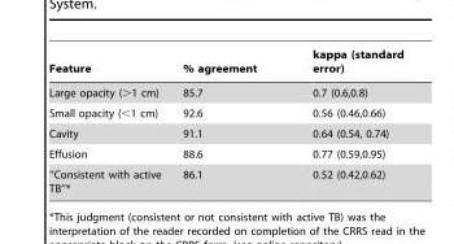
<table><thead><tr><td>Feature</td><td>% agreement</td><td>kappa (standard error)</td></tr></thead><tbody><tr><td>Large opacity (&gt;1 cm)</td><td>85.7</td><td>0.7 (0.6,0.8)</td></tr><tr><td>Small opacity (&lt;1 cm)</td><td>92.6</td><td>0.56 (0.46,0.66)</td></tr><tr><td>Cavity</td><td>91.1</td><td>0.64 (0.54, 0.74)</td></tr><tr><td>Effusion</td><td>88.6</td><td>0.77 (0.59,0.95)</td></tr><tr><td>‘‘Consistent with active TB’’*</td><td>86.1</td><td>0.52 (0.42,0.62)</td></tr></tbody></table>